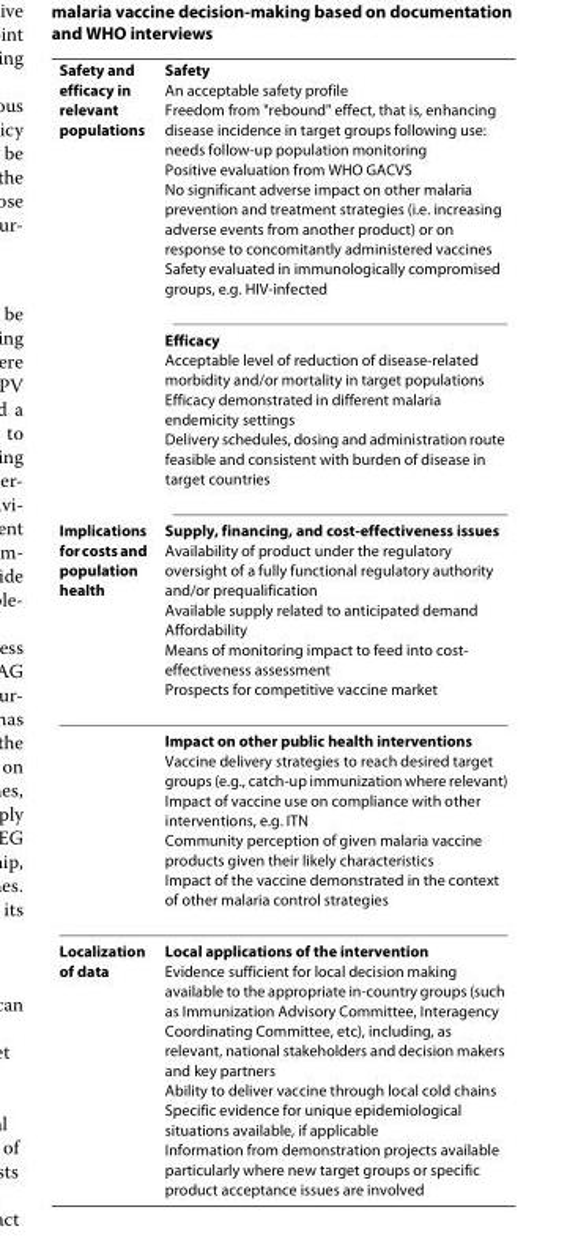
<table><thead><tr><td rowspan="3">Safety and efficacy in relevant populations Implications for costs and population health</td><td rowspan="3">Safety An acceptable safety profile Freedom from &quot;rebound&quot; effect, that is, enhancing disease incidence in target groups following use: needs follow-up population monitoring Positive evaluation from WHO GACVS No significant adverse impact on other malaria prevention and treatment strategies (i.e. increasing adverse events from another product) or on response to concomitantly administered vaccines Safety evaluated in immunologically compromised groups, e.g. HIV-infected Efficacy Acceptable level of reduction of disease-related morbidity and/or mortality in target populations Efficacy demonstrated in different malaria endemicity settings Delivery schedules, dosing and administration route feasible and consistent with burden of disease in target countries Supply, financing, and cost-effectiveness issues Availability of product under the regulatory oversight of a fully functional regulatory authority and/or prequalification Available supply related to anticipated demand Affordability Means of monitoring impact to feed into cost- effectiveness assessment Prospects for competitive vaccine market</td></tr><tr></tr><tr></tr></thead><tbody><tr><td></td><td>Impact on other public health interventions Vaccine delivery strategies to reach desired target groups (e.g., catch-up immunization where relevant) Impact of vaccine use on compliance with other interventions, e.g. ITN Community perception of given malaria vaccine products given their likely characteristics Impact of the vaccine demonstrated in the context of other malaria control strategies</td></tr><tr><td>Localization of data</td><td>Local applications of the intervention Evidence sufficient for local decision making available to the appropriate in-country groups (such as Immunization Advisory Committee, Interagency Coordinating Committee, etc), including, as relevant, national stakeholders and decision makers and key partners Ability to deliver vaccine through local cold chains Specific evidence for unique epidemiological situations available, if applicable Information from demonstration projects available particularly where new target groups or specific product acceptance issues are involved</td></tr></tbody></table>